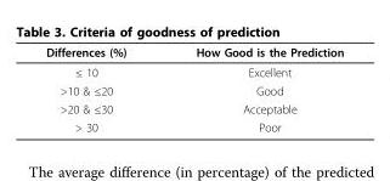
<table><thead><tr><td>Differences (%)</td><td>How Good is the Prediction</td></tr></thead><tbody><tr><td>≤ 10</td><td>Excellent</td></tr><tr><td>&gt;10 &amp; ≤20</td><td>Good</td></tr><tr><td>&gt;20 &amp; ≤30</td><td>Acceptable</td></tr><tr><td>&gt; 30</td><td>Poor</td></tr></tbody></table>